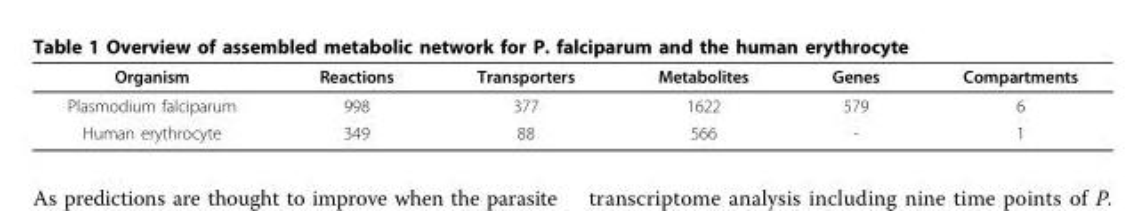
<table><thead><tr><td>Organism</td><td>Reactions</td><td>Transporters</td><td>Metabolites</td><td>Genes</td><td>Compartments</td></tr></thead><tbody><tr><td>Plasmodium falciparum</td><td>998</td><td>377</td><td>1622</td><td>579</td><td>6</td></tr><tr><td>Human erythrocyte</td><td>349</td><td>88</td><td>566</td><td>-</td><td>1</td></tr></tbody></table>